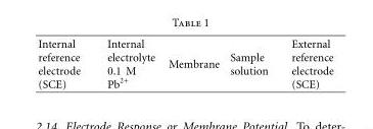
<table><tbody><tr><td>Internal reference electrode (SCE)</td><td>Internal electrolyte 0.1 M Pb<sup>2+</sup></td><td>Membrane</td><td>Sample solution</td><td>External reference electrode (SCE)</td></tr></tbody></table>